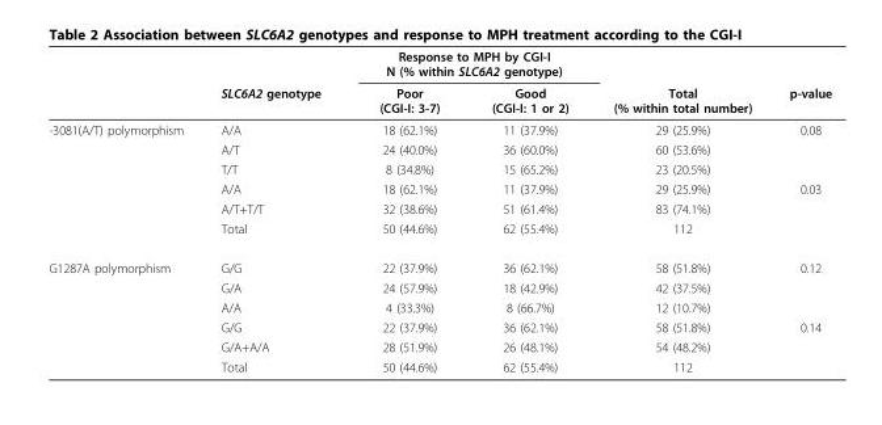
<table><thead><tr><td rowspan="2"></td><td rowspan="2">SLC6A2 genotype</td><td colspan="2">Response to MPH by CGI-I N (% within SLC6A2 genotype)</td><td rowspan="2">Total (% within total number)</td><td rowspan="2">p-value</td></tr><tr><td>Poor (CGI-I: 3-7)</td><td>Good (CGI-I: 1 or 2)</td></tr></thead><tbody><tr><td rowspan="6">-3081(A/T) polymorphism</td><td>A/A</td><td>18 (62.1%)</td><td>11 (37.9%)</td><td>29 (25.9%)</td><td>0.08</td></tr><tr><td>A/T</td><td>24 (40.0%)</td><td>36 (60.0%)</td><td>60 (53.6%)</td><td></td></tr><tr><td>T/T</td><td>8 (34.8%)</td><td>15 (65.2%)</td><td>23 (20.5%)</td><td></td></tr><tr><td>A/A</td><td>18 (62.1%)</td><td>11 (37.9%)</td><td>29 (25.9%)</td><td>0.03</td></tr><tr><td>A/T+T/T</td><td>32 (38.6%)</td><td>51 (61.4%)</td><td>83 (74.1%)</td><td></td></tr><tr><td>Total</td><td>50 (44.6%)</td><td>62 (55.4%)</td><td>112</td><td></td></tr><tr><td rowspan="6">G1287A polymorphism</td><td>G/G</td><td>22 (37.9%)</td><td>36 (62.1%)</td><td>58 (51.8%)</td><td>0.12</td></tr><tr><td>G/A</td><td>24 (57.9%)</td><td>18 (42.9%)</td><td>42 (37.5%)</td><td></td></tr><tr><td>A/A</td><td>4 (33.3%)</td><td>8 (66.7%)</td><td>12 (10.7%)</td><td></td></tr><tr><td>G/G</td><td>22 (37.9%)</td><td>36 (62.1%)</td><td>58 (51.8%)</td><td>0.14</td></tr><tr><td>G/A+A/A</td><td>28 (51.9%)</td><td>26 (48.1%)</td><td>54 (48.2%)</td><td></td></tr><tr><td>Total</td><td>50 (44.6%)</td><td>62 (55.4%)</td><td>112</td><td></td></tr></tbody></table>